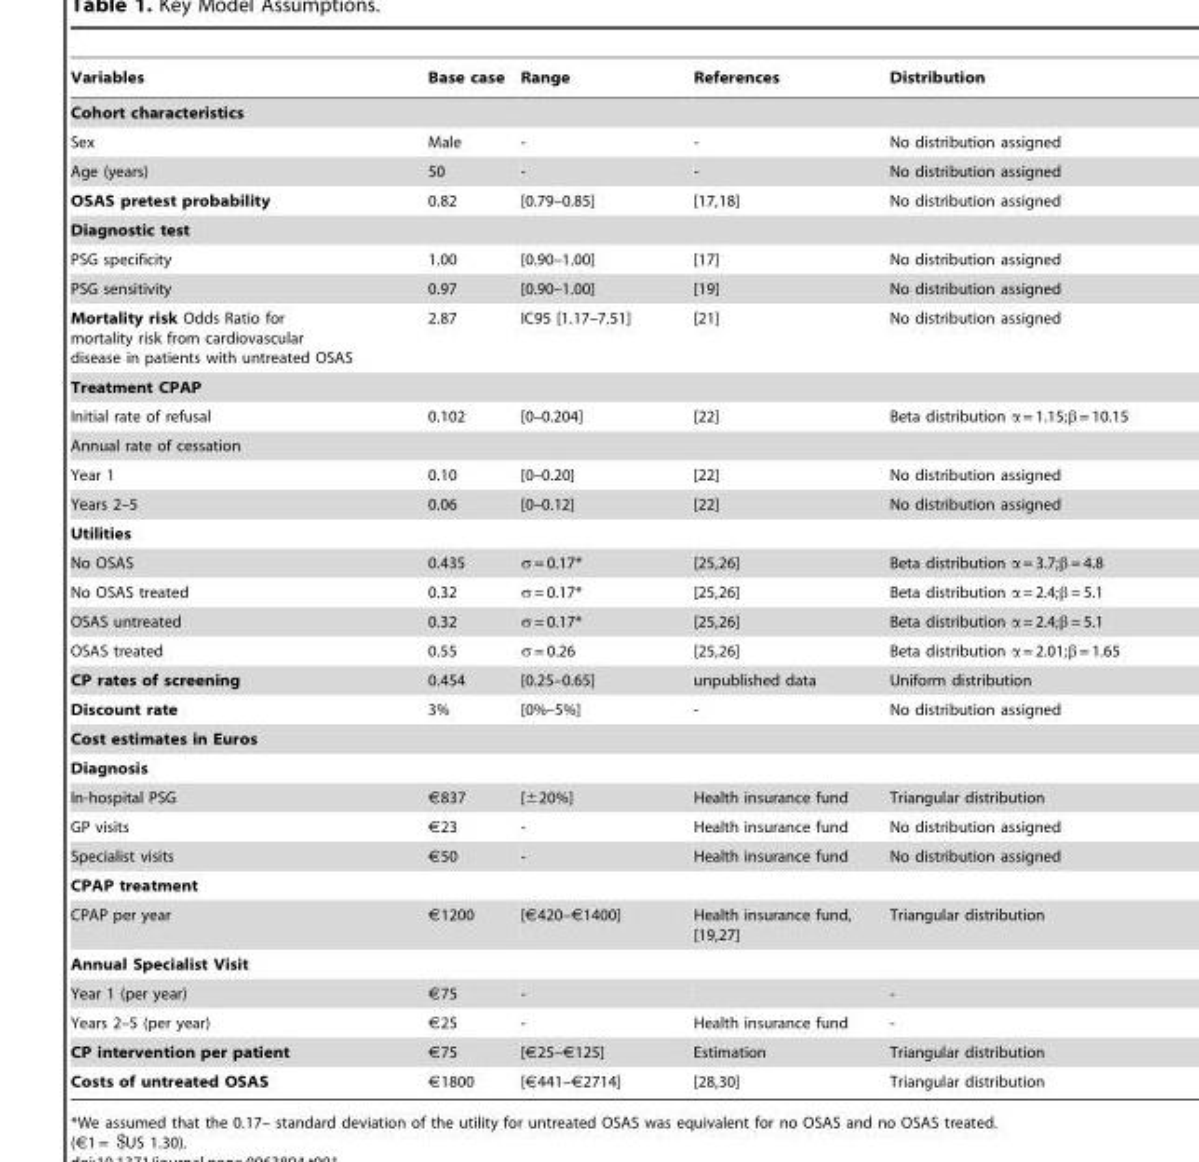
<table><thead><tr><td>Variables</td><td>Base case</td><td>Range</td><td>References</td><td>Distribution</td></tr></thead><tbody><tr><td colspan="5">Cohort characteristics</td></tr><tr><td>Sex</td><td>Male</td><td>-</td><td>-</td><td>No distribution assigned</td></tr><tr><td>Age (years)</td><td>50</td><td>-</td><td>-</td><td>No distribution assigned</td></tr><tr><td>OSAS pretest probability</td><td>0.82</td><td>[0.79–0.85]</td><td>[17,18]</td><td>No distribution assigned</td></tr><tr><td colspan="5">Diagnostic test</td></tr><tr><td>PSG specificity</td><td>1.00</td><td>[0.90–1.00]</td><td>[17]</td><td>No distribution assigned</td></tr><tr><td>PSG sensitivity</td><td>0.97</td><td>[0.90–1.00]</td><td>[19]</td><td>No distribution assigned</td></tr><tr><td>Mortality risk Odds Ratio for mortality risk from cardiovascular disease in patients with untreated OSAS</td><td>2.87</td><td>IC95 [1.17–7.51]</td><td>[21]</td><td>No distribution assigned</td></tr><tr><td colspan="5">Treatment CPAP</td></tr><tr><td>Initial rate of refusal</td><td>0.102</td><td>[0–0.204]</td><td>[22]</td><td>Beta distribution α = 1.15;β = 10.15</td></tr><tr><td colspan="5">Annual rate of cessation</td></tr><tr><td>Year 1</td><td>0.10</td><td>[0–0.20]</td><td>[22]</td><td>No distribution assigned</td></tr><tr><td>Years 2–5</td><td>0.06</td><td>[0–0.12]</td><td>[22]</td><td>No distribution assigned</td></tr><tr><td colspan="5">Utilities</td></tr><tr><td>No OSAS</td><td>0.435</td><td>σ = 0.17*</td><td>[25,26]</td><td>Beta distribution α = 3.7;β = 4.8</td></tr><tr><td>No OSAS treated</td><td>0.32</td><td>σ = 0.17*</td><td>[25,26]</td><td>Beta distribution α = 2.4;β = 5.1</td></tr><tr><td>OSAS untreated</td><td>0.32</td><td>σ = 0.17*</td><td>[25,26]</td><td>Beta distribution α = 2.4;β = 5.1</td></tr><tr><td>OSAS treated</td><td>0.55</td><td>σ = 0.26</td><td>[25,26]</td><td>Beta distribution α = 2.01;β = 1.65</td></tr><tr><td>CP rates of screening</td><td>0.454</td><td>[0.25–0.65]</td><td>unpublished data</td><td>Uniform distribution</td></tr><tr><td>Discount rate</td><td>3%</td><td>[0%–5%]</td><td>-</td><td>No distribution assigned</td></tr><tr><td colspan="5">Cost estimates in Euros</td></tr><tr><td colspan="5">Diagnosis</td></tr><tr><td>In-hospital PSG</td><td>€837</td><td>[±20%]</td><td>Health insurance fund</td><td>Triangular distribution</td></tr><tr><td>GP visits</td><td>€23</td><td>-</td><td>Health insurance fund</td><td>No distribution assigned</td></tr><tr><td>Specialist visits</td><td>€50</td><td>-</td><td>Health insurance fund</td><td>No distribution assigned</td></tr><tr><td colspan="5">CPAP treatment</td></tr><tr><td>CPAP per year</td><td>€1200</td><td>[€420–€1400]</td><td>Health insurance fund, [19,27]</td><td>Triangular distribution</td></tr><tr><td colspan="5">Annual Specialist Visit</td></tr><tr><td>Year 1 (per year)</td><td>€75</td><td>-</td><td></td><td>-</td></tr><tr><td>Years 2–5 (per year)</td><td>€25</td><td>-</td><td>Health insurance fund</td><td>-</td></tr><tr><td>CP intervention per patient</td><td>€75</td><td>[€25–€125]</td><td>Estimation</td><td>Triangular distribution</td></tr><tr><td>Costs of untreated OSAS</td><td>€1800</td><td>[€441–€2714]</td><td>[28,30]</td><td>Triangular distribution</td></tr></tbody></table>